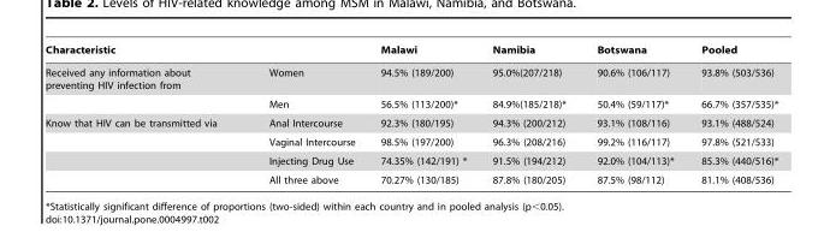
<table><thead><tr><td colspan="2">Characteristic</td><td rowspan="2">Malawi 94.5% (189/200)</td><td rowspan="2">Namibia 95.0%(207/218)</td><td rowspan="2">Botswana 90.6% (106/117)</td><td rowspan="2">Pooled 93.8% (503/536)</td></tr><tr><td>Received any information about preventing HIV infection from</td><td>Women</td></tr></thead><tbody><tr><td></td><td>Men</td><td>56.5% (113/200)*</td><td>84.9%(185/218)*</td><td>50.4% (59/117)*</td><td>66.7% (357/535)*</td></tr><tr><td rowspan="4">Know that HIV can be transmitted via</td><td>Anal Intercourse</td><td>92.3% (180/195)</td><td>94.3% (200/212)</td><td>93.1% (108/116)</td><td>93.1% (488/524)</td></tr><tr><td>Vaginal Intercourse</td><td>98.5% (197/200)</td><td>96.3% (208/216)</td><td>99.2% (116/117)</td><td>97.8% (521/533)</td></tr><tr><td>Injecting Drug Use</td><td>74.35% (142/191) *</td><td>91.5% (194/212)</td><td>92.0% (104/113)*</td><td>85.3% (440/516)*</td></tr><tr><td>All three above</td><td>70.27% (130/185)</td><td>87.8% (180/205)</td><td>87.5% (98/112)</td><td>81.1% (408/536)</td></tr></tbody></table>